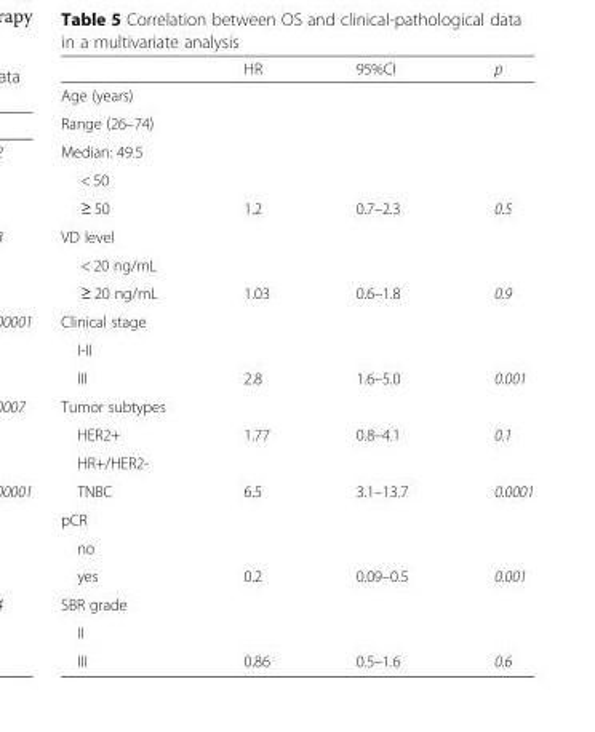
<table><thead><tr><td></td><td>HR</td><td>95%CI</td><td>p</td></tr></thead><tbody><tr><td colspan="4">Age (years)</td></tr><tr><td colspan="4">Range (26–74)</td></tr><tr><td colspan="4">Median: 49.5</td></tr><tr><td colspan="4">&lt; 50</td></tr><tr><td>≥ 50</td><td>1.2</td><td>0.7–2.3</td><td>0.5</td></tr><tr><td colspan="4">VD level</td></tr><tr><td colspan="4">&lt; 20 ng/mL</td></tr><tr><td>≥ 20 ng/mL</td><td>1.03</td><td>0.6–1.8</td><td>0.9</td></tr><tr><td colspan="4">Clinical stage</td></tr><tr><td colspan="4">I-II</td></tr><tr><td>III</td><td>2.8</td><td>1.6–5.0</td><td>0.001</td></tr><tr><td colspan="4">Tumor subtypes</td></tr><tr><td>HER2+</td><td>1.77</td><td>0.8–4.1</td><td>0.1</td></tr><tr><td colspan="4">HR+/HER2-</td></tr><tr><td>TNBC</td><td>6.5</td><td>3.1–13.7</td><td>0.0001</td></tr><tr><td colspan="4">pCR</td></tr><tr><td colspan="4">no</td></tr><tr><td>yes</td><td>0.2</td><td>0.09–0.5</td><td>0.001</td></tr><tr><td colspan="4">SBR grade</td></tr><tr><td colspan="4">II</td></tr><tr><td>III</td><td>0.86</td><td>0.5–1.6</td><td>0.6</td></tr></tbody></table>